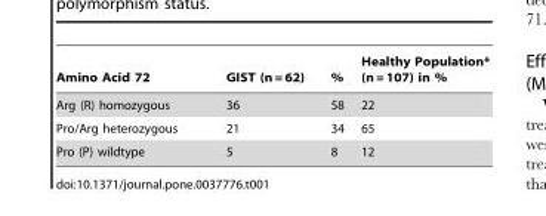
<table><thead><tr><td>Amino Acid 72</td><td>GIST (n = 62)</td><td>%</td><td>Healthy Population* (n = 107) in %</td></tr></thead><tbody><tr><td>Arg (R) homozygous</td><td>36</td><td>58</td><td>22</td></tr><tr><td>Pro/Arg heterozygous</td><td>21</td><td>34</td><td>65</td></tr><tr><td>Pro (P) wildtype</td><td>5</td><td>8</td><td>12</td></tr></tbody></table>